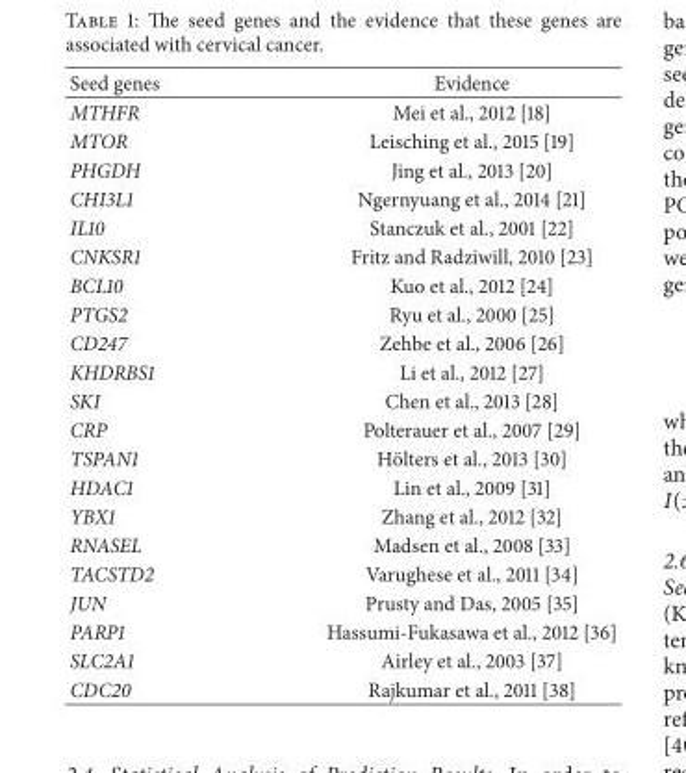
<table><thead><tr><td>Seed genes</td><td>Evidence</td></tr></thead><tbody><tr><td>MTHFR</td><td>Mei et al., 2012 [18]</td></tr><tr><td>MTOR</td><td>Leisching et al., 2015 [19]</td></tr><tr><td>PHGDH</td><td>Jing et al., 2013 [20]</td></tr><tr><td>CHI3L1</td><td>Ngernyuang et al., 2014 [21]</td></tr><tr><td>IL10</td><td>Stanczuk et al., 2001 [22]</td></tr><tr><td>CNKSR1</td><td>Fritz and Radziwill, 2010 [23]</td></tr><tr><td>BCL10</td><td>Kuo et al., 2012 [24]</td></tr><tr><td>PTGS2</td><td>Ryu et al., 2000 [25]</td></tr><tr><td>CD247</td><td>Zehbe et al., 2006 [26]</td></tr><tr><td>KHDRBS1</td><td>Li et al., 2012 [27]</td></tr><tr><td>SKI</td><td>Chen et al., 2013 [28]</td></tr><tr><td>CRP</td><td>Polterauer et al., 2007 [29]</td></tr><tr><td>TSPAN1</td><td>H¨olters et al., 2013 [30]</td></tr><tr><td>HDAC1</td><td>Lin et al., 2009 [31]</td></tr><tr><td>YBX1</td><td>Zhang et al., 2012 [32]</td></tr><tr><td>RNASEL</td><td>Madsen et al., 2008 [33]</td></tr><tr><td>TACSTD2</td><td>Varughese et al., 2011 [34]</td></tr><tr><td>JUN</td><td>Prusty and Das, 2005 [35]</td></tr><tr><td>PARP1</td><td>Hassumi-Fukasawa et al., 2012 [36]</td></tr><tr><td>SLC2A1</td><td>Airley et al., 2003 [37]</td></tr><tr><td>CDC20</td><td>Rajkumar et al., 2011 [38]</td></tr></tbody></table>